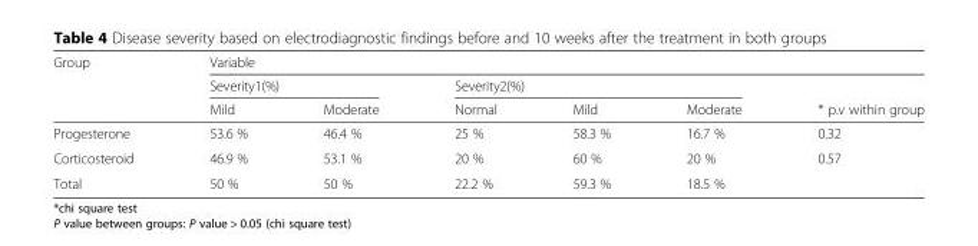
<table><thead><tr><td rowspan="3">Group</td><td colspan="6">Variable</td></tr><tr><td colspan="2">Severity1(%)</td><td colspan="3">Severity2(%)</td><td rowspan="2">* p.v within group</td></tr><tr><td>Mild</td><td>Moderate</td><td>Normal</td><td>Mild</td><td>Moderate</td></tr></thead><tbody><tr><td>Progesterone</td><td>53.6 %</td><td>46.4 %</td><td>25 %</td><td>58.3 %</td><td>16.7 %</td><td>0.32</td></tr><tr><td>Corticosteroid</td><td>46.9 %</td><td>53.1 %</td><td>20 %</td><td>60 %</td><td>20 %</td><td>0.57</td></tr><tr><td>Total</td><td>50 %</td><td>50 %</td><td>22.2 %</td><td>59.3 %</td><td>18.5 %</td><td></td></tr></tbody></table>